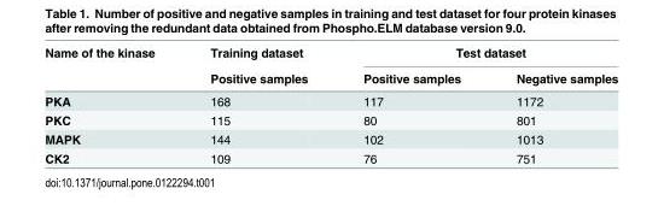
<table><thead><tr><td rowspan="2">Name of the kinase</td><td rowspan="2">Training dataset Positive samples</td><td colspan="2">Test dataset</td></tr><tr><td>Positive samples</td><td>Negative samples</td></tr></thead><tbody><tr><td>PKA</td><td>168</td><td>117</td><td>1172</td></tr><tr><td>PKC</td><td>115</td><td>80</td><td>801</td></tr><tr><td>MAPK</td><td>144</td><td>102</td><td>1013</td></tr><tr><td>CK2</td><td>109</td><td>76</td><td>751</td></tr></tbody></table>